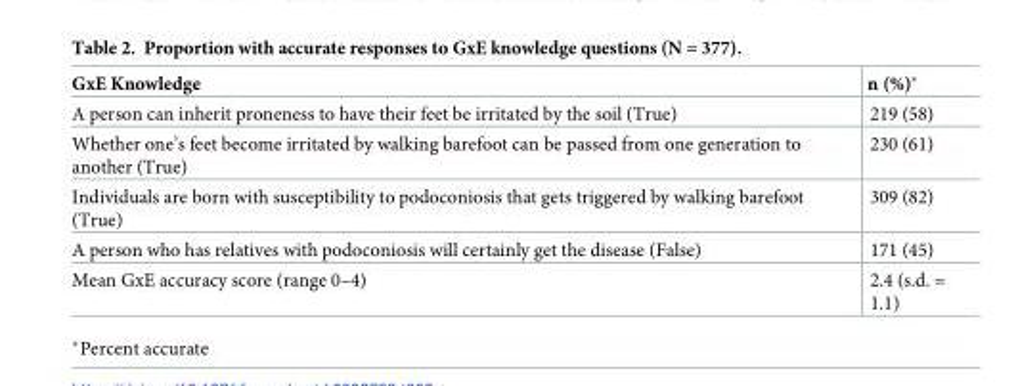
<table><thead><tr><td>GxE Knowledge</td><td>n (%)*</td></tr></thead><tbody><tr><td>A person can inherit proneness to have their feet be irritated by the soil (True)</td><td>219 (58)</td></tr><tr><td>Whether one’s feet become irritated by walking barefoot can be passed from one generation to another (True)</td><td>230 (61)</td></tr><tr><td>Individuals are born with susceptibility to podoconiosis that gets triggered by walking barefoot (True)</td><td>309 (82)</td></tr><tr><td>A person who has relatives with podoconiosis will certainly get the disease (False)</td><td>171 (45)</td></tr><tr><td>Mean GxE accuracy score (range 0–4)</td><td>2.4 (s.d. = 1.1)</td></tr></tbody></table>